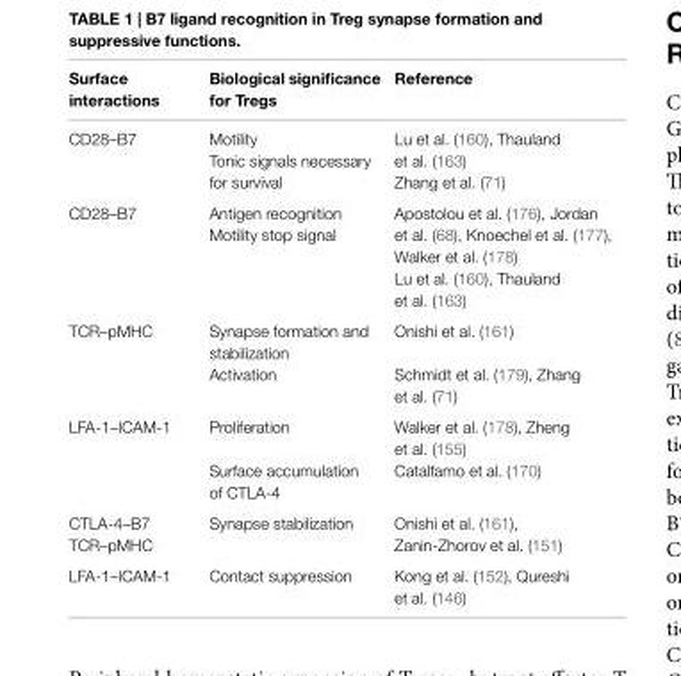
<table><thead><tr><td>Surface interactions</td><td>Biological significance for Tregs</td><td>Reference</td></tr></thead><tbody><tr><td>CD28–B7</td><td>Motility Tonic signals necessary for survival</td><td>Lu et al. (160), Thauland et al. (163) Zhang et al. (71)</td></tr><tr><td rowspan="2">CD28–B7</td><td>Antigen recognition Motility stop signal</td><td>Apostolou et al. (176), Jordan et al. (68), Knoechel et al. (177), Walker et al. (178)</td></tr><tr><td></td><td>Lu et al. (160), Thauland et al. (163)</td></tr><tr><td rowspan="2">TCR–pMHC</td><td>Synapse formation and stabilization</td><td>Onishi et al. (161)</td></tr><tr><td>Activation</td><td>Schmidt et al. (179), Zhang et al. (71)</td></tr><tr><td rowspan="2">LFA-1–ICAM-1</td><td>Proliferation</td><td>Walker et al. (178), Zheng et al. (155)</td></tr><tr><td>Surface accumulation of CTLA-4</td><td>Catalfamo et al. (170)</td></tr><tr><td>CTLA-4–B7</td><td rowspan="2">Synapse stabilization</td><td rowspan="2">Onishi et al. (161), Zanin-Zhorov et al. (151)</td></tr><tr><td>TCR–pMHC</td></tr><tr><td>LFA-1–ICAM-1</td><td>Contact suppression</td><td>Kong et al. (152), Qureshi et al. (146)</td></tr></tbody></table>